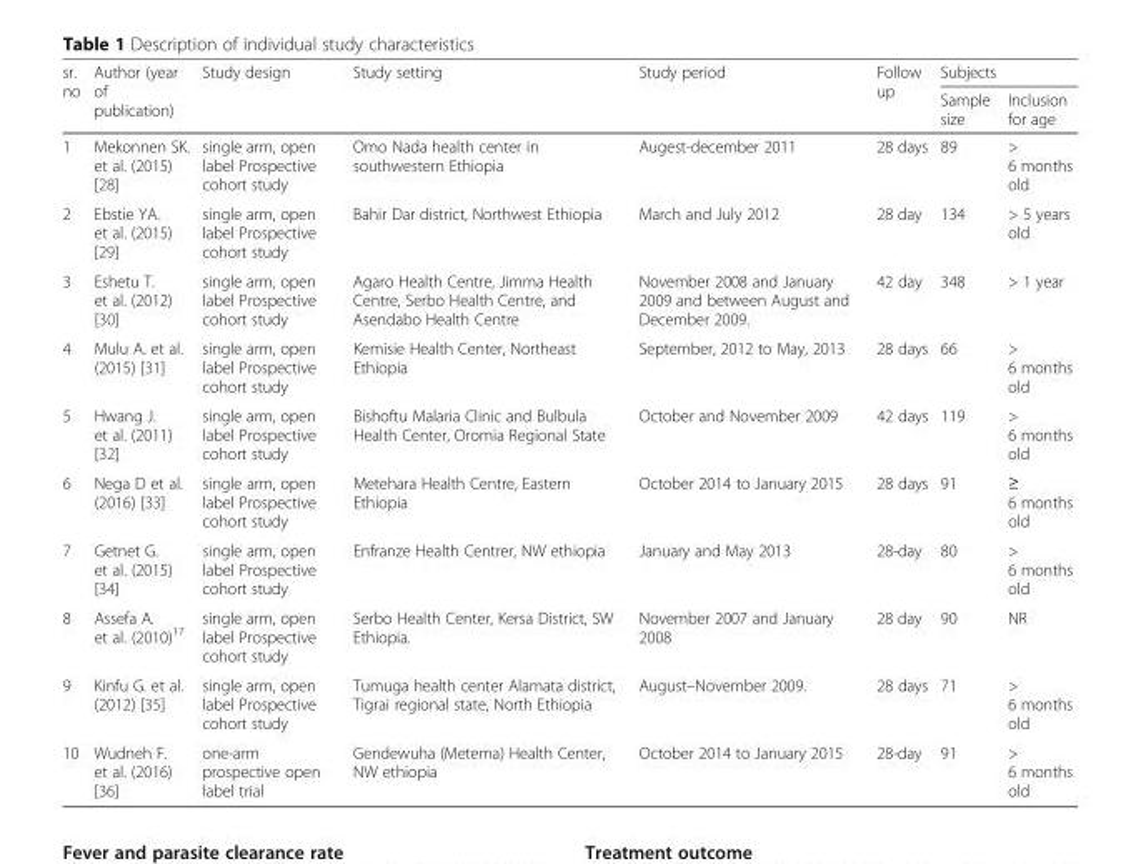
<table><thead><tr><td rowspan="2">sr. no</td><td rowspan="2">Author (year of publication)</td><td rowspan="2">Study design</td><td rowspan="2">Study setting</td><td rowspan="2">Study period</td><td rowspan="2">Follow up</td><td colspan="2">Subjects</td></tr><tr><td>Sample size</td><td>Inclusion for age</td></tr></thead><tbody><tr><td>1</td><td>Mekonnen SK. et al. (2015) [28]</td><td>single arm, open label Prospective cohort study</td><td>Omo Nada health center in southwestern Ethiopia</td><td>Augest-december 2011</td><td>28 days</td><td>89</td><td>&gt; 6 months old</td></tr><tr><td>2</td><td>Ebstie YA. et al. (2015) [29]</td><td>single arm, open label Prospective cohort study</td><td>Bahir Dar district, Northwest Ethiopia</td><td>March and July 2012</td><td>28 day</td><td>134</td><td>&gt; 5 years old</td></tr><tr><td>3</td><td>Eshetu T. et al. (2012) [30]</td><td>single arm, open label Prospective cohort study</td><td>Agaro Health Centre, Jimma Health Centre, Serbo Health Centre, and Asendabo Health Centre</td><td>November 2008 and January 2009 and between August and December 2009.</td><td>42 day</td><td>348</td><td>&gt; 1 year</td></tr><tr><td>4</td><td>Mulu A. et al. (2015) [31]</td><td>single arm, open label Prospective cohort study</td><td>Kemisie Health Center, Northeast Ethiopia</td><td>September, 2012 to May, 2013</td><td>28 days</td><td>66</td><td>&gt; 6 months old</td></tr><tr><td>5</td><td>Hwang J. et al. (2011) [32]</td><td>single arm, open label Prospective cohort study</td><td>Bishoftu Malaria Clinic and Bulbula Health Center, Oromia Regional State</td><td>October and November 2009</td><td>42 days</td><td>119</td><td>&gt; 6 months old</td></tr><tr><td>6</td><td>Nega D et al. (2016) [33]</td><td>single arm, open label Prospective cohort study</td><td>Metehara Health Centre, Eastern Ethiopia</td><td>October 2014 to January 2015</td><td>28 days</td><td>91</td><td>≥ 6 months old</td></tr><tr><td>7</td><td>Getnet G. et al. (2015) [34]</td><td>single arm, open label Prospective cohort study</td><td>Enfranze Health Centrer, NW ethiopia</td><td>January and May 2013</td><td>28-day</td><td>80</td><td>&gt; 6 months old</td></tr><tr><td>8</td><td>Assefa A. et al. (2010)<sup>17</sup></td><td>single arm, open label Prospective cohort study</td><td>Serbo Health Center, Kersa District, SW Ethiopia.</td><td>November 2007 and January 2008</td><td>28 day</td><td>90</td><td>NR</td></tr><tr><td>9</td><td>Kinfu G. et al. (2012) [35]</td><td>single arm, open label Prospective cohort study</td><td>Tumuga health center Alamata district, Tigrai regional state, North Ethiopia</td><td>August–November 2009.</td><td>28 days</td><td>71</td><td>&gt; 6 months old</td></tr><tr><td>10</td><td>Wudneh F. et al. (2016) [36]</td><td>one-arm prospective open label trial</td><td>Gendewuha (Metema) Health Center, NW ethiopia</td><td>October 2014 to January 2015</td><td>28-day</td><td>91</td><td>&gt; 6 months old</td></tr></tbody></table>